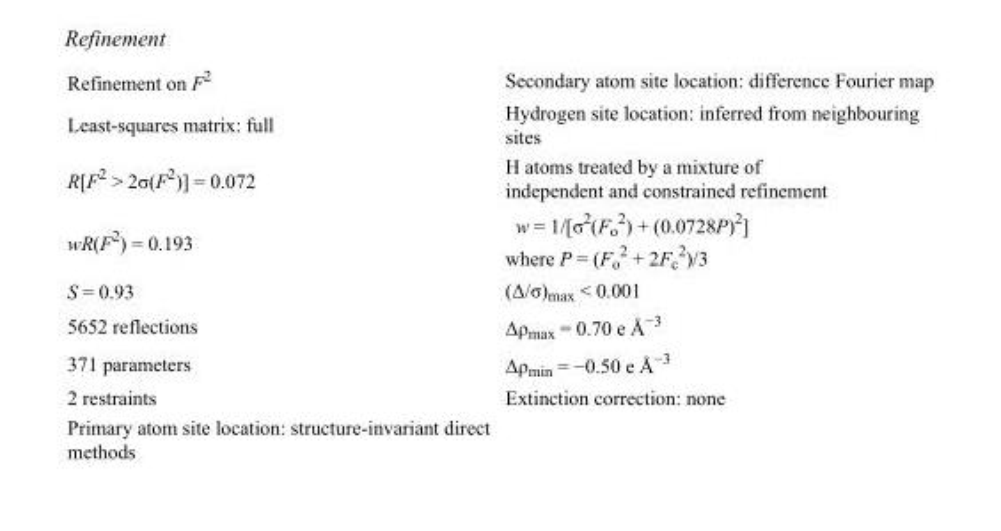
<table><tbody><tr><td>Refinement on F<sup>2</sup></td><td>Secondary atom site location: difference Fourier map</td></tr><tr><td>Least-squares matrix: full</td><td>Hydrogen site location: inferred from neighbouring sites</td></tr><tr><td>R[F<sup>2</sup> &gt; 2σ(F<sup>2</sup>)] = 0.072</td><td>H atoms treated by a mixture of independent and constrained refinement</td></tr><tr><td>wR(F<sup>2</sup>) = 0.193</td><td>w = 1/[σ<sup>2</sup>(F<sub>o</sub> <sup>2</sup>) + (0.0728P)<sup>2</sup>] where P = (F<sub>o</sub> <sup>2</sup> + 2F<sub>c</sub> <sup>2</sup>)/3</td></tr><tr><td>S = 0.93</td><td>(Δ/σ)<sub>max</sub> &lt; 0.001</td></tr><tr><td>5652 reflections</td><td>Δρ<sub>max</sub> = 0.70 e Å<sup>−3</sup></td></tr><tr><td>371 parameters</td><td>Δρ<sub>min</sub> = −0.50 e Å<sup>−3</sup></td></tr><tr><td>2 restraints</td><td>Extinction correction: none</td></tr><tr><td>Primary atom site location: structure-invariant direct methods</td><td></td></tr></tbody></table>